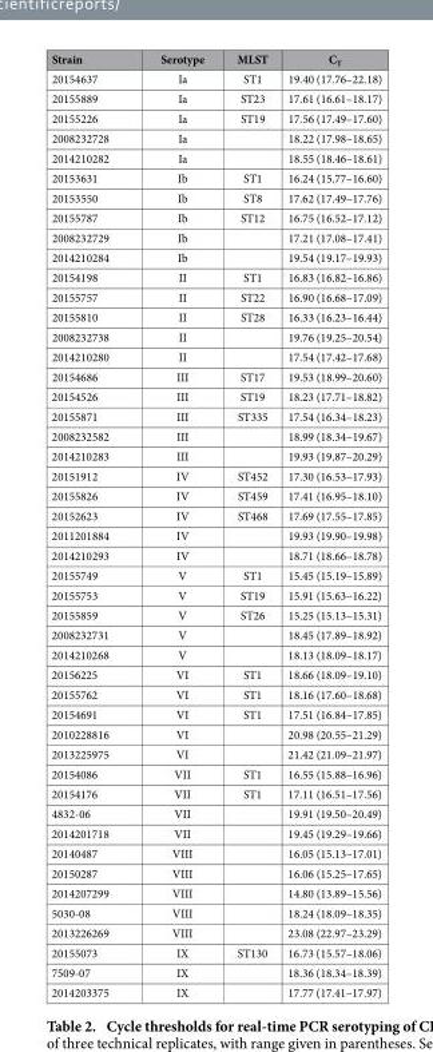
<table><thead><tr><td>Strain</td><td>Serotype</td><td>MLST</td><td>C<sub>T</sub></td></tr></thead><tbody><tr><td>20154637</td><td>Ia</td><td>ST1</td><td>19.40 (17.76–22.18)</td></tr><tr><td>20155889</td><td>Ia</td><td>ST23</td><td>17.61 (16.61–18.17)</td></tr><tr><td>20155226</td><td>Ia</td><td>ST19</td><td>17.56 (17.49–17.60)</td></tr><tr><td>2008232728</td><td>Ia</td><td></td><td>18.22 (17.98–18.65)</td></tr><tr><td>2014210282</td><td>Ia</td><td></td><td>18.55 (18.46–18.61)</td></tr><tr><td>20153631</td><td>Ib</td><td>ST1</td><td>16.24 (15.77–16.60)</td></tr><tr><td>20153550</td><td>Ib</td><td>ST8</td><td>17.62 (17.49–17.76)</td></tr><tr><td>20155787</td><td>Ib</td><td>ST12</td><td>16.75 (16.52–17.12)</td></tr><tr><td>2008232729</td><td>Ib</td><td></td><td>17.21 (17.08–17.41)</td></tr><tr><td>2014210284</td><td>Ib</td><td></td><td>19.54 (19.17–19.93)</td></tr><tr><td>20154198</td><td>II</td><td>ST1</td><td>16.83 (16.82–16.86)</td></tr><tr><td>20155757</td><td>II</td><td>ST22</td><td>16.90 (16.68–17.09)</td></tr><tr><td>20155810</td><td>II</td><td>ST28</td><td>16.33 (16.23–16.44)</td></tr><tr><td>2008232738</td><td>II</td><td></td><td>19.76 (19.25–20.54)</td></tr><tr><td>2014210280</td><td>II</td><td></td><td>17.54 (17.42–17.68)</td></tr><tr><td>20154686</td><td>III</td><td>ST17</td><td>19.53 (18.99–20.60)</td></tr><tr><td>20154526</td><td>III</td><td>ST19</td><td>18.23 (17.71–18.82)</td></tr><tr><td>20155871</td><td>III</td><td>ST335</td><td>17.54 (16.34–18.23)</td></tr><tr><td>2008232582</td><td>III</td><td></td><td>18.99 (18.34–19.67)</td></tr><tr><td>2014210283</td><td>III</td><td></td><td>19.93 (19.87–20.29)</td></tr><tr><td>20151912</td><td>IV</td><td>ST452</td><td>17.30 (16.53–17.93)</td></tr><tr><td>20155826</td><td>IV</td><td>ST459</td><td>17.41 (16.95–18.10)</td></tr><tr><td>20152623</td><td>IV</td><td>ST468</td><td>17.69 (17.55–17.85)</td></tr><tr><td>2011201884</td><td>IV</td><td></td><td>19.93 (19.90–19.98)</td></tr><tr><td>2014210293</td><td>IV</td><td></td><td>18.71 (18.66–18.78)</td></tr><tr><td>20155749</td><td>V</td><td>ST1</td><td>15.45 (15.19–15.89)</td></tr><tr><td>20155753</td><td>V</td><td>ST19</td><td>15.91 (15.63–16.22)</td></tr><tr><td>20155859</td><td>V</td><td>ST26</td><td>15.25 (15.13–15.31)</td></tr><tr><td>2008232731</td><td>V</td><td></td><td>18.45 (17.89–18.92)</td></tr><tr><td>2014210268</td><td>V</td><td></td><td>18.13 (18.09–18.17)</td></tr><tr><td>20156225</td><td>VI</td><td>ST1</td><td>18.66 (18.09–19.10)</td></tr><tr><td>20155762</td><td>VI</td><td>ST1</td><td>18.16 (17.60–18.68)</td></tr><tr><td>20154691</td><td>VI</td><td>ST1</td><td>17.51 (16.84–17.85)</td></tr><tr><td>2010228816</td><td>VI</td><td></td><td>20.98 (20.55–21.29)</td></tr><tr><td>2013225975</td><td>VI</td><td></td><td>21.42 (21.09–21.97)</td></tr><tr><td>20154086</td><td>VII</td><td>ST1</td><td>16.55 (15.88–16.96)</td></tr><tr><td>20154176</td><td>VII</td><td>ST1</td><td>17.11 (16.51–17.56)</td></tr><tr><td>4832-06</td><td>VII</td><td></td><td>19.91 (19.50–20.49)</td></tr><tr><td>2014201718</td><td>VII</td><td></td><td>19.45 (19.29–19.66)</td></tr><tr><td>20140487</td><td>VIII</td><td></td><td>16.05 (15.13–17.01)</td></tr><tr><td>20150287</td><td>VIII</td><td></td><td>16.06 (15.25–17.65)</td></tr><tr><td>2014207299</td><td>VIII</td><td></td><td>14.80 (13.89–15.56)</td></tr><tr><td>5030-08</td><td>VIII</td><td></td><td>18.24 (18.09–18.35)</td></tr><tr><td>2013226269</td><td>VIII</td><td></td><td>23.08 (22.97–23.29)</td></tr><tr><td>20155073</td><td>IX</td><td>ST130</td><td>16.73 (15.57–18.06)</td></tr><tr><td>7509-07</td><td>IX</td><td></td><td>18.36 (18.34–18.39)</td></tr><tr><td>2014203375</td><td>IX</td><td></td><td>17.77 (17.41–17.97)</td></tr></tbody></table>